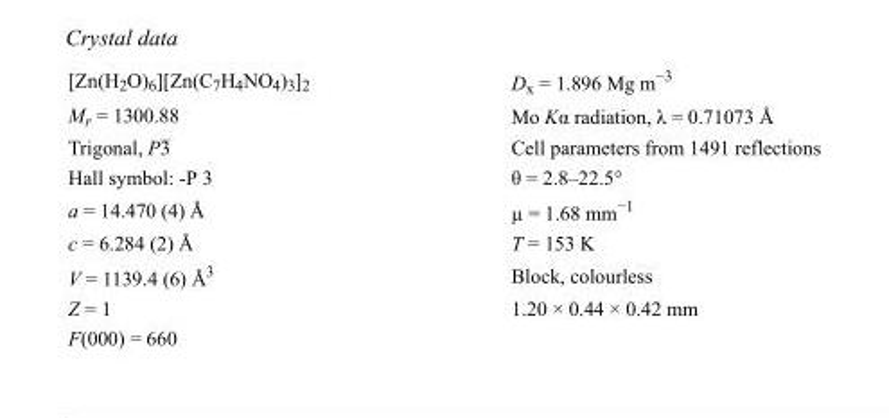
<table><tbody><tr><td>[Zn(H<sub>2</sub>O)<sub>6</sub>][Zn(C<sub>7</sub>H<sub>4</sub>NO<sub>4</sub>)<sub>3</sub>]<sub>2</sub></td><td>D<sub>x</sub> = 1.896 Mg m<sup>−3</sup></td></tr><tr><td>M<sub>r</sub> = 1300.88</td><td>Mo Kα radiation, λ = 0.71073 Å</td></tr><tr><td>Trigonal, P3</td><td>Cell parameters from 1491 reflections</td></tr><tr><td>Hall symbol: -P 3</td><td>θ = 2.8–22.5°</td></tr><tr><td>a = 14.470 (4) Å</td><td>µ = 1.68 mm<sup>−1</sup></td></tr><tr><td>c = 6.284 (2) Å</td><td>T = 153 K</td></tr><tr><td>V = 1139.4 (6) Å<sup>3</sup></td><td>Block, colourless</td></tr><tr><td>Z = 1</td><td>1.20 × 0.44 × 0.42 mm</td></tr><tr><td>F(000) = 660</td><td></td></tr></tbody></table>